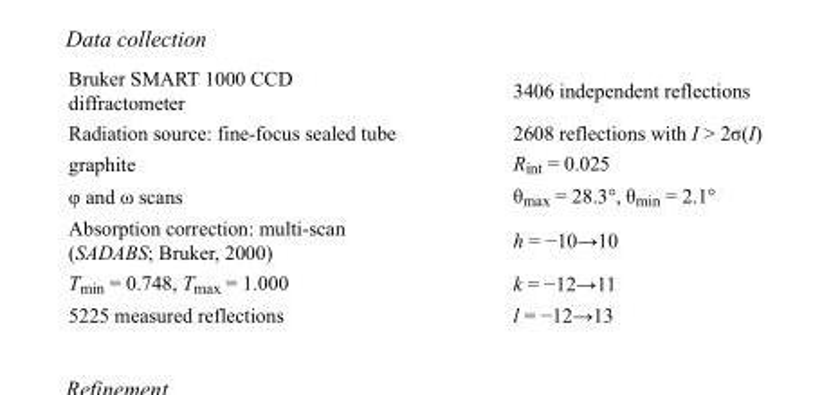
<table><tbody><tr><td>Bruker SMART 1000 CCD diffractometer</td><td>3406 independent reflections</td></tr><tr><td>Radiation source: fine-focus sealed tube</td><td>2608 reflections with I &gt; 2σ(I)</td></tr><tr><td>graphite</td><td>R<sub>int</sub> = 0.025</td></tr><tr><td>φ and ω scans</td><td>θ<sub>max</sub> = 28.3°, θ<sub>min</sub> = 2.1°</td></tr><tr><td>Absorption correction: multi-scan (SADABS; Bruker, 2000)</td><td>h = −10→10</td></tr><tr><td>T<sub>min</sub> = 0.748, T<sub>max</sub> = 1.000</td><td>k = −12→11</td></tr><tr><td>5225 measured reflections</td><td>l = −12→13</td></tr></tbody></table>